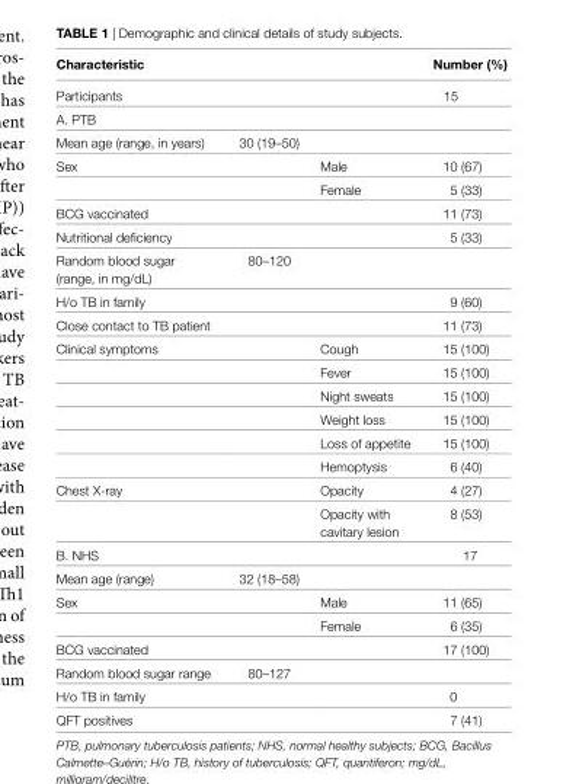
<table><thead><tr><td>characteristic</td><td></td><td></td><td>number (%)</td></tr></thead><tbody><tr><td>Participants</td><td></td><td></td><td>15</td></tr><tr><td colspan="4">A. PTB</td></tr><tr><td>Mean age (range, in years)</td><td>30 (19–50)</td><td></td><td></td></tr><tr><td rowspan="2">Sex</td><td></td><td>Male</td><td>10 (67)</td></tr><tr><td></td><td>Female</td><td>5 (33)</td></tr><tr><td>BCG vaccinated</td><td></td><td></td><td>11 (73)</td></tr><tr><td>Nutritional deficiency</td><td></td><td></td><td>5 (33)</td></tr><tr><td>Random blood sugar (range, in mg/dL)</td><td>80–120</td><td></td><td></td></tr><tr><td>H/o TB in family</td><td></td><td></td><td>9 (60)</td></tr><tr><td>Close contact to TB patient</td><td></td><td></td><td>11 (73)</td></tr><tr><td rowspan="6">Clinical symptoms</td><td></td><td>Cough</td><td>15 (100)</td></tr><tr><td></td><td>Fever</td><td>15 (100)</td></tr><tr><td></td><td>Night sweats</td><td>15 (100)</td></tr><tr><td></td><td>Weight loss</td><td>15 (100)</td></tr><tr><td></td><td>Loss of appetite</td><td>15 (100)</td></tr><tr><td></td><td>Hemoptysis</td><td>6 (40)</td></tr><tr><td rowspan="2">Chest X-ray</td><td></td><td>Opacity</td><td>4 (27)</td></tr><tr><td></td><td>Opacity with cavitary lesion</td><td>8 (53)</td></tr><tr><td>B. NHS</td><td></td><td></td><td>17</td></tr><tr><td>Mean age (range)</td><td>32 (18–58)</td><td></td><td></td></tr><tr><td rowspan="2">Sex</td><td></td><td>Male</td><td>11 (65)</td></tr><tr><td></td><td>Female</td><td>6 (35)</td></tr><tr><td>BCG vaccinated</td><td></td><td></td><td>17 (100)</td></tr><tr><td>Random blood sugar range</td><td>80–127</td><td></td><td></td></tr><tr><td>H/o TB in family</td><td></td><td></td><td>0</td></tr><tr><td>QFT positives</td><td></td><td></td><td>7 (41)</td></tr></tbody></table>